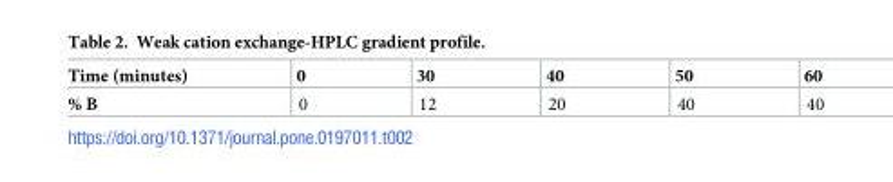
<table><thead><tr><td>Time (minutes)</td><td>0</td><td>30</td><td>40</td><td>50</td><td>60</td></tr></thead><tbody><tr><td>% B</td><td>0</td><td>12</td><td>20</td><td>40</td><td>40</td></tr></tbody></table>